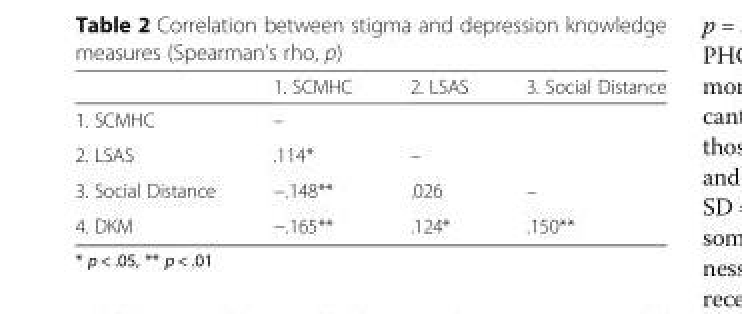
<table><thead><tr><td></td><td>1. SCMHC</td><td>2. LSAS</td><td>3. Social Distance</td></tr></thead><tbody><tr><td>1. SCMHC</td><td>–</td><td></td><td></td></tr><tr><td>2. LSAS</td><td>.114*</td><td>–</td><td></td></tr><tr><td>3. Social Distance</td><td>−.148**</td><td>.026</td><td>–</td></tr><tr><td>4. DKM</td><td>−.165**</td><td>.124*</td><td>.150**</td></tr></tbody></table>